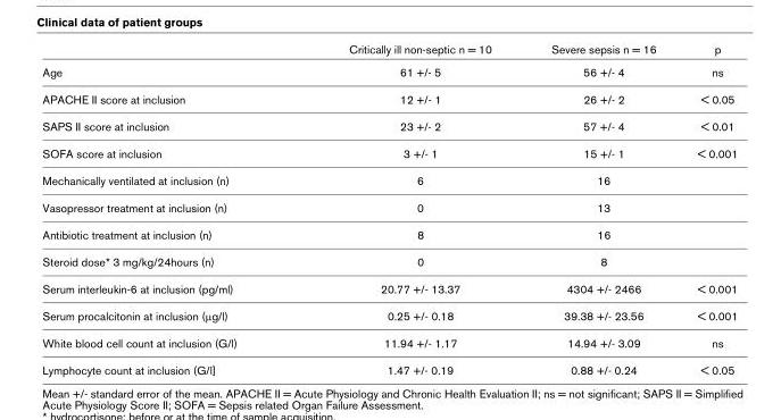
<table><thead><tr><td></td><td>Critically ill non-septic n = 10</td><td>Severe sepsis n = 16</td><td>p</td></tr></thead><tbody><tr><td>Age</td><td>61 +/- 5</td><td>56 +/- 4</td><td>ns</td></tr><tr><td>APACHE II score at inclusion</td><td>12 +/- 1</td><td>26 +/- 2</td><td>&lt; 0.05</td></tr><tr><td>SAPS II score at inclusion</td><td>23 +/- 2</td><td>57 +/- 4</td><td>&lt; 0.01</td></tr><tr><td>SOFA score at inclusion</td><td>3 +/- 1</td><td>15 +/- 1</td><td>&lt; 0.001</td></tr><tr><td>Mechanically ventilated at inclusion (n)</td><td>6</td><td>16</td><td></td></tr><tr><td>Vasopressor treatment at inclusion (n)</td><td>0</td><td>13</td><td></td></tr><tr><td>Antibiotic treatment at inclusion (n)</td><td>8</td><td>16</td><td></td></tr><tr><td>Steroid dose* 3 mg/kg/24hours (n)</td><td>0</td><td>8</td><td></td></tr><tr><td>Serum interleukin-6 at inclusion (pg/ml)</td><td>20.77 +/- 13.37</td><td>4304 +/- 2466</td><td>&lt; 0.001</td></tr><tr><td>Serum procalcitonin at inclusion (μg/l)</td><td>0.25 +/- 0.18</td><td>39.38 +/- 23.56</td><td>&lt; 0.001</td></tr><tr><td>White blood cell count at inclusion (G/l)</td><td>11.94 +/- 1.17</td><td>14.94 +/- 3.09</td><td>ns</td></tr><tr><td>Lymphocyte count at inclusion (G/l]</td><td>1.47 +/- 0.19</td><td>0.88 +/- 0.24</td><td>&lt; 0.05</td></tr></tbody></table>